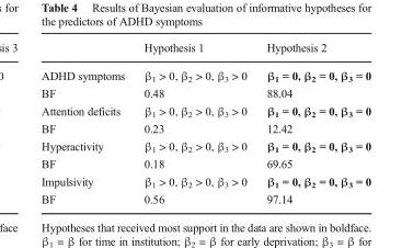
<table><thead><tr><td></td><td>Hypothesis 1</td><td>Hypothesis 2</td></tr></thead><tbody><tr><td>ADHD symptoms</td><td>β<sub>1</sub> &gt; 0, β<sub>2</sub> &gt; 0, β<sub>3</sub> &gt; 0</td><td>β<sub>1</sub> = 0, β<sub>2</sub> = 0, β<sub>3</sub> = 0</td></tr><tr><td>BF</td><td>0.48</td><td>88.04</td></tr><tr><td>Attention deficits</td><td>β<sub>1</sub> &gt; 0, β<sub>2</sub> &gt; 0, β<sub>3</sub> &gt; 0</td><td>β<sub>1</sub> = 0, β<sub>2</sub> = 0, β<sub>3</sub> = 0</td></tr><tr><td>BF</td><td>0.23</td><td>12.42</td></tr><tr><td>Hyperactivity</td><td>β<sub>1</sub> &gt; 0, β<sub>2</sub> &gt; 0, β<sub>3</sub> &gt; 0</td><td>β<sub>1</sub> = 0, β<sub>2</sub> = 0, β<sub>3</sub> = 0</td></tr><tr><td>BF</td><td>0.18</td><td>69.65</td></tr><tr><td>Impulsivity</td><td>β<sub>1</sub> &gt; 0, β<sub>2</sub> &gt; 0, β<sub>3</sub> &gt; 0</td><td>β<sub>1</sub> = 0, β<sub>2</sub> = 0, β<sub>3</sub> = 0</td></tr><tr><td>BF</td><td>0.56</td><td>97.14</td></tr></tbody></table>